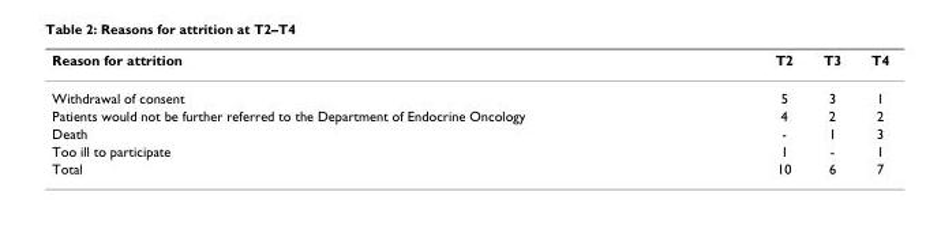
<table><thead><tr><td>Reason for attrition</td><td>T2</td><td>T3</td><td>T4</td></tr></thead><tbody><tr><td>Withdrawal of consent</td><td>5</td><td>3</td><td>1</td></tr><tr><td>Patients would not be further referred to the Department of Endocrine Oncology</td><td>4</td><td>2</td><td>2</td></tr><tr><td>Death</td><td>-</td><td>1</td><td>3</td></tr><tr><td>Too ill to participate</td><td>1</td><td>-</td><td>1</td></tr><tr><td>Total</td><td>10</td><td>6</td><td>7</td></tr></tbody></table>